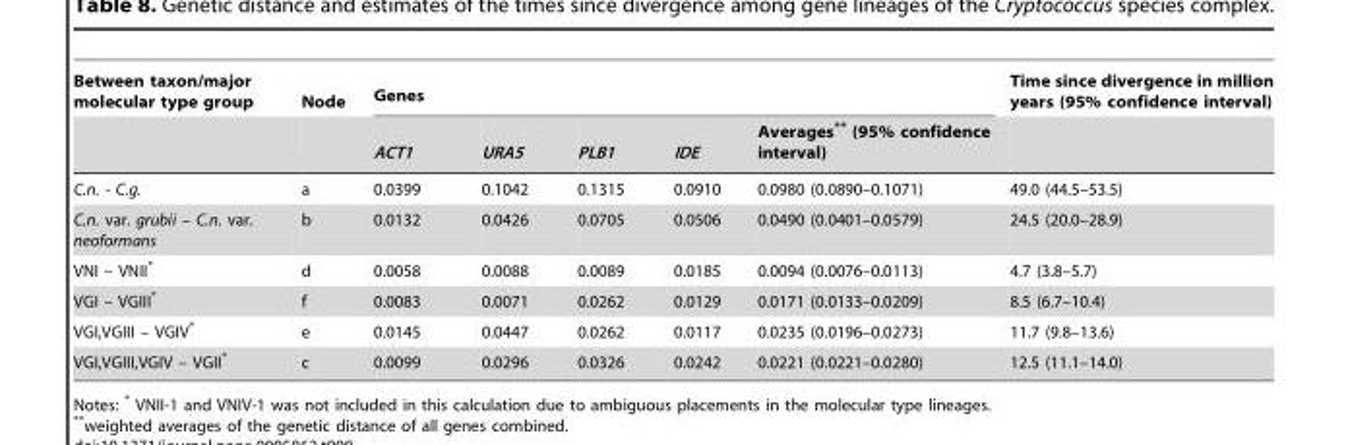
<table><thead><tr><td rowspan="2">Between taxon/major molecular type group</td><td rowspan="2">Node</td><td colspan="5">Genes</td><td rowspan="2">Time since divergence in million years (95% confidence interval)</td></tr><tr><td>ACT1</td><td>URA5</td><td>PLB1</td><td>IDE</td><td>Averages** (95% confidence interval)</td></tr></thead><tbody><tr><td>C.n. - C.g.</td><td>a</td><td>0.0399</td><td>0.1042</td><td>0.1315</td><td>0.0910</td><td>0.0980 (0.0890–0.1071)</td><td>49.0 (44.5–53.5)</td></tr><tr><td>C.n. var. grubii – C.n. var. neoformans</td><td>b</td><td>0.0132</td><td>0.0426</td><td>0.0705</td><td>0.0506</td><td>0.0490 (0.0401–0.0579)</td><td>24.5 (20.0–28.9)</td></tr><tr><td>VNI – VNII*</td><td>d</td><td>0.0058</td><td>0.0088</td><td>0.0089</td><td>0.0185</td><td>0.0094 (0.0076–0.0113)</td><td>4.7 (3.8–5.7)</td></tr><tr><td>VGI – VGIII*</td><td>f</td><td>0.0083</td><td>0.0071</td><td>0.0262</td><td>0.0129</td><td>0.0171 (0.0133–0.0209)</td><td>8.5 (6.7–10.4)</td></tr><tr><td>VGI,VGIII – VGIV*</td><td>e</td><td>0.0145</td><td>0.0447</td><td>0.0262</td><td>0.0117</td><td>0.0235 (0.0196–0.0273)</td><td>11.7 (9.8–13.6)</td></tr><tr><td>VGI,VGIII,VGIV – VGII*</td><td>c</td><td>0.0099</td><td>0.0296</td><td>0.0326</td><td>0.0242</td><td>0.0221 (0.0221–0.0280)</td><td>12.5 (11.1–14.0)</td></tr></tbody></table>